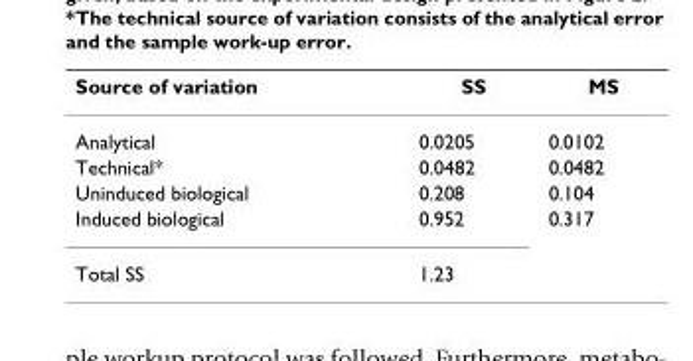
<table><thead><tr><td>Source of variation</td><td>SS</td><td>MS</td></tr></thead><tbody><tr><td>Analytical</td><td>0.0205</td><td>0.0102</td></tr><tr><td>Technical*</td><td>0.0482</td><td>0.0482</td></tr><tr><td>Uninduced biological</td><td>0.208</td><td>0.104</td></tr><tr><td>Induced biological</td><td>0.952</td><td>0.317</td></tr><tr><td>Total SS</td><td>1.23</td><td></td></tr></tbody></table>